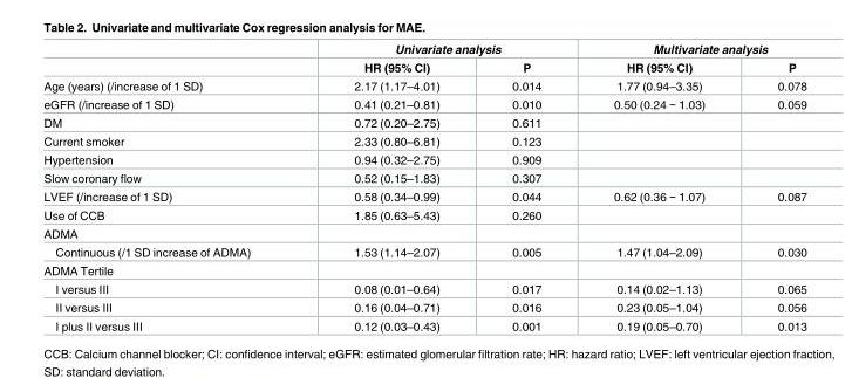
<table><thead><tr><td rowspan="2"></td><td colspan="2">Univariate analysis</td><td colspan="2">Multivariate analysis</td></tr><tr><td>HR (95% CI)</td><td>P</td><td>HR (95% CI)</td><td>P</td></tr></thead><tbody><tr><td>Age (years) (/increase of 1 SD)</td><td>2.17 (1.17–4.01)</td><td>0.014</td><td>1.77 (0.94–3.35)</td><td>0.078</td></tr><tr><td>eGFR (/increase of 1 SD)</td><td>0.41 (0.21–0.81)</td><td>0.010</td><td>0.50 (0.24 − 1.03)</td><td>0.059</td></tr><tr><td>DM</td><td>0.72 (0.20–2.75)</td><td>0.611</td><td></td><td></td></tr><tr><td>Current smoker</td><td>2.33 (0.80–6.81)</td><td>0.123</td><td></td><td></td></tr><tr><td>Hypertension</td><td>0.94 (0.32–2.75)</td><td>0.909</td><td></td><td></td></tr><tr><td>Slow coronary flow</td><td>0.52 (0.15–1.83)</td><td>0.307</td><td></td><td></td></tr><tr><td>LVEF (/increase of 1 SD)</td><td>0.58 (0.34–0.99)</td><td>0.044</td><td>0.62 (0.36 − 1.07)</td><td>0.087</td></tr><tr><td>Use of CCB</td><td>1.85 (0.63–5.43)</td><td>0.260</td><td></td><td></td></tr><tr><td colspan="5">ADMA</td></tr><tr><td>Continuous (/1 SD increase of ADMA)</td><td>1.53 (1.14–2.07)</td><td>0.005</td><td>1.47 (1.04–2.09)</td><td>0.030</td></tr><tr><td colspan="5">ADMA Tertile</td></tr><tr><td>I versus III</td><td>0.08 (0.01–0.64)</td><td>0.017</td><td>0.14 (0.02–1.13)</td><td>0.065</td></tr><tr><td>II versus III</td><td>0.16 (0.04–0.71)</td><td>0.016</td><td>0.23 (0.05–1.04)</td><td>0.056</td></tr><tr><td>I plus II versus III</td><td>0.12 (0.03–0.43)</td><td>0.001</td><td>0.19 (0.05–0.70)</td><td>0.013</td></tr></tbody></table>